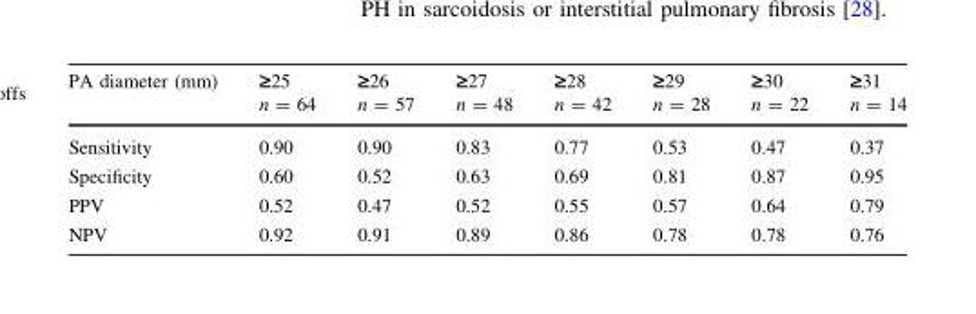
<table><thead><tr><td rowspan="2">PA diameter (mm)</td><td rowspan="2">‡25 n = 64</td><td rowspan="2">‡26 n = 57</td><td rowspan="2">‡27 n = 48</td><td rowspan="2">‡28 n = 42</td><td rowspan="2">‡29 n = 28</td><td rowspan="2">‡30 n = 22</td><td rowspan="2">‡31 n = 14</td></tr><tr></tr></thead><tbody><tr><td>Sensitivity</td><td>0.90</td><td>0.90</td><td>0.83</td><td>0.77</td><td>0.53</td><td>0.47</td><td>0.37</td></tr><tr><td>Specificity</td><td>0.60</td><td>0.52</td><td>0.63</td><td>0.69</td><td>0.81</td><td>0.87</td><td>0.95</td></tr><tr><td>PPV</td><td>0.52</td><td>0.47</td><td>0.52</td><td>0.55</td><td>0.57</td><td>0.64</td><td>0.79</td></tr><tr><td>NPV</td><td>0.92</td><td>0.91</td><td>0.89</td><td>0.86</td><td>0.78</td><td>0.78</td><td>0.76</td></tr></tbody></table>